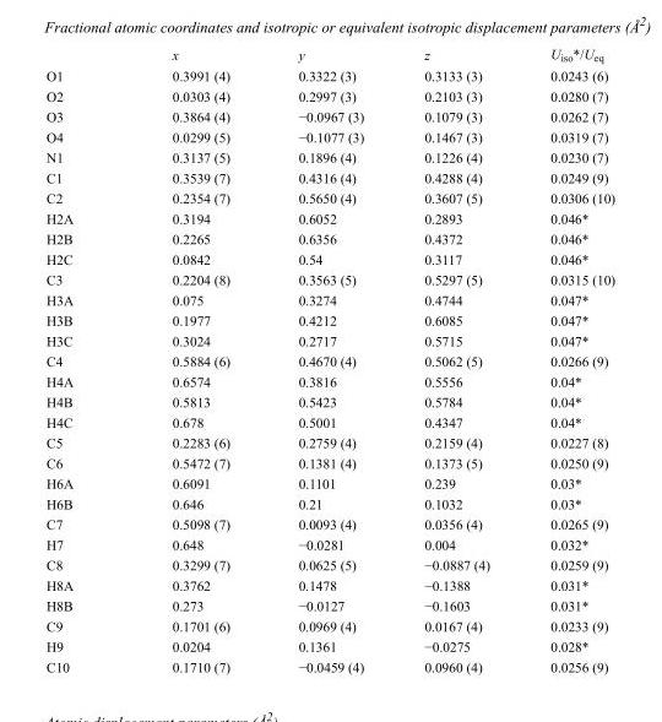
<table><thead><tr><td></td><td>x</td><td>y</td><td>z</td><td>U<sub>iso</sub>*/U<sub>eq</sub></td></tr></thead><tbody><tr><td>O1</td><td>0.3991 (4)</td><td>0.3322 (3)</td><td>0.3133 (3)</td><td>0.0243 (6)</td></tr><tr><td>O2</td><td>0.0303 (4)</td><td>0.2997 (3)</td><td>0.2103 (3)</td><td>0.0280 (7)</td></tr><tr><td>O3</td><td>0.3864 (4)</td><td>−0.0967 (3)</td><td>0.1079 (3)</td><td>0.0262 (7)</td></tr><tr><td>O4</td><td>0.0299 (5)</td><td>−0.1077 (3)</td><td>0.1467 (3)</td><td>0.0319 (7)</td></tr><tr><td>N1</td><td>0.3137 (5)</td><td>0.1896 (4)</td><td>0.1226 (4)</td><td>0.0230 (7)</td></tr><tr><td>C1</td><td>0.3539 (7)</td><td>0.4316 (4)</td><td>0.4288 (4)</td><td>0.0249 (9)</td></tr><tr><td>C2</td><td>0.2354 (7)</td><td>0.5650 (4)</td><td>0.3607 (5)</td><td>0.0306 (10)</td></tr><tr><td>H2A</td><td>0.3194</td><td>0.6052</td><td>0.2893</td><td>0.046*</td></tr><tr><td>H2B</td><td>0.2265</td><td>0.6356</td><td>0.4372</td><td>0.046*</td></tr><tr><td>H2C</td><td>0.0842</td><td>0.54</td><td>0.3117</td><td>0.046*</td></tr><tr><td>C3</td><td>0.2204 (8)</td><td>0.3563 (5)</td><td>0.5297 (5)</td><td>0.0315 (10)</td></tr><tr><td>H3A</td><td>0.075</td><td>0.3274</td><td>0.4744</td><td>0.047*</td></tr><tr><td>H3B</td><td>0.1977</td><td>0.4212</td><td>0.6085</td><td>0.047*</td></tr><tr><td>H3C</td><td>0.3024</td><td>0.2717</td><td>0.5715</td><td>0.047*</td></tr><tr><td>C4</td><td>0.5884 (6)</td><td>0.4670 (4)</td><td>0.5062 (5)</td><td>0.0266 (9)</td></tr><tr><td>H4A</td><td>0.6574</td><td>0.3816</td><td>0.5556</td><td>0.04*</td></tr><tr><td>H4B</td><td>0.5813</td><td>0.5423</td><td>0.5784</td><td>0.04*</td></tr><tr><td>H4C</td><td>0.678</td><td>0.5001</td><td>0.4347</td><td>0.04*</td></tr><tr><td>C5</td><td>0.2283 (6)</td><td>0.2759 (4)</td><td>0.2159 (4)</td><td>0.0227 (8)</td></tr><tr><td>C6</td><td>0.5472 (7)</td><td>0.1381 (4)</td><td>0.1373 (5)</td><td>0.0250 (9)</td></tr><tr><td>H6A</td><td>0.6091</td><td>0.1101</td><td>0.239</td><td>0.03*</td></tr><tr><td>H6B</td><td>0.646</td><td>0.21</td><td>0.1032</td><td>0.03*</td></tr><tr><td>C7</td><td>0.5098 (7)</td><td>0.0093 (4)</td><td>0.0356 (4)</td><td>0.0265 (9)</td></tr><tr><td>H7</td><td>0.648</td><td>−0.0281</td><td>0.004</td><td>0.032*</td></tr><tr><td>C8</td><td>0.3299 (7)</td><td>0.0625 (5)</td><td>−0.0887 (4)</td><td>0.0259 (9)</td></tr><tr><td>H8A</td><td>0.3762</td><td>0.1478</td><td>−0.1388</td><td>0.031*</td></tr><tr><td>H8B</td><td>0.273</td><td>−0.0127</td><td>−0.1603</td><td>0.031*</td></tr><tr><td>C9</td><td>0.1701 (6)</td><td>0.0969 (4)</td><td>0.0167 (4)</td><td>0.0233 (9)</td></tr><tr><td>H9</td><td>0.0204</td><td>0.1361</td><td>−0.0275</td><td>0.028*</td></tr><tr><td>C10</td><td>0.1710 (7)</td><td>−0.0459 (4)</td><td>0.0960 (4)</td><td>0.0256 (9)</td></tr></tbody></table>